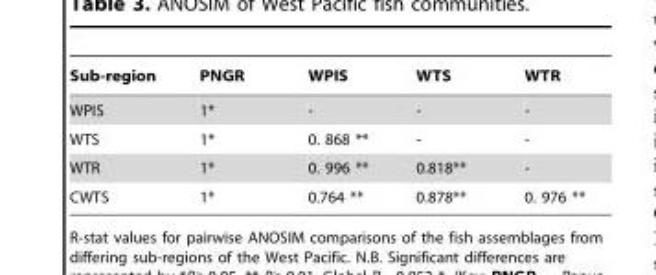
<table><thead><tr><td>Sub-region</td><td>PNGR</td><td>WPIS</td><td>WTS</td><td>WTR</td></tr></thead><tbody><tr><td>WPIS</td><td>1*</td><td>-</td><td>-</td><td>-</td></tr><tr><td>WTS</td><td>1*</td><td>0. 868 **</td><td>-</td><td>-</td></tr><tr><td>WTR</td><td>1*</td><td>0. 996 **</td><td>0.818**</td><td>-</td></tr><tr><td>CWTS</td><td>1*</td><td>0.764 **</td><td>0.878**</td><td>0. 976 **</td></tr></tbody></table>